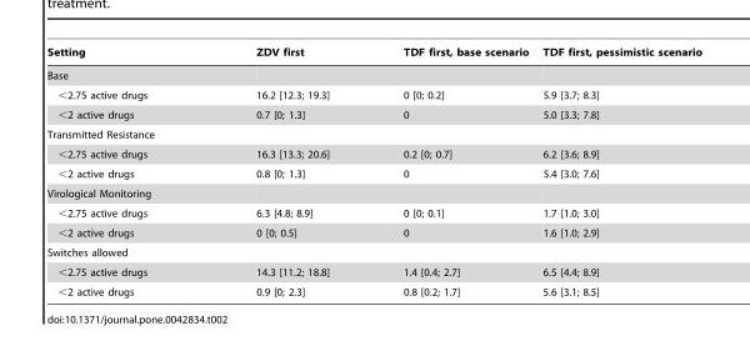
<table><thead><tr><td>Setting</td><td>ZDV first</td><td>TDF first, base scenario</td><td>TDF first, pessimistic scenario</td></tr></thead><tbody><tr><td colspan="4">Base</td></tr><tr><td>&lt;2.75 active drugs</td><td>16.2 [12.3; 19.3]</td><td>0 [0; 0.2]</td><td>5.9 [3.7; 8.3]</td></tr><tr><td>&lt;2 active drugs</td><td>0.7 [0; 1.3]</td><td>0</td><td>5.0 [3.3; 7.8]</td></tr><tr><td colspan="4">Transmitted Resistance</td></tr><tr><td>&lt;2.75 active drugs</td><td>16.3 [13.3; 20.6]</td><td>0.2 [0; 0.7]</td><td>6.2 [3.6; 8.9]</td></tr><tr><td>&lt;2 active drugs</td><td>0.8 [0; 1.3]</td><td>0</td><td>5.4 [3.0; 7.6]</td></tr><tr><td colspan="4">Virological Monitoring</td></tr><tr><td>&lt;2.75 active drugs</td><td>6.3 [4.8; 8.9]</td><td>0 [0; 0.1]</td><td>1.7 [1.0; 3.0]</td></tr><tr><td>&lt;2 active drugs</td><td>0 [0; 0.5]</td><td>0</td><td>1.6 [1.0; 2.9]</td></tr><tr><td colspan="4">Switches allowed</td></tr><tr><td>&lt;2.75 active drugs</td><td>14.3 [11.2; 18.8]</td><td>1.4 [0.4; 2.7]</td><td>6.5 [4.4; 8.9]</td></tr><tr><td>&lt;2 active drugs</td><td>0.9 [0; 2.3]</td><td>0.8 [0.2; 1.7]</td><td>5.6 [3.1; 8.5]</td></tr></tbody></table>